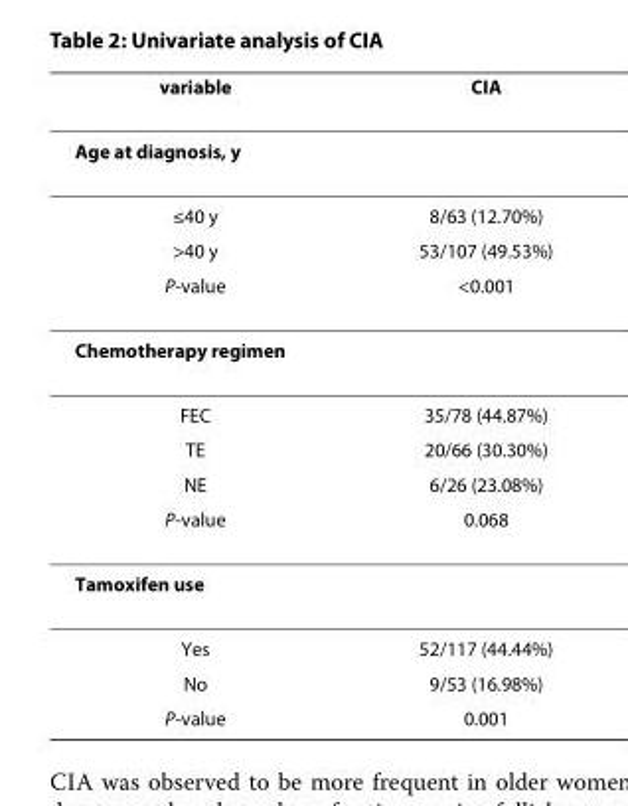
<table><thead><tr><td>variable</td><td>CIA</td></tr></thead><tbody><tr><td colspan="2">Age at diagnosis, y</td></tr><tr><td>≤40 y</td><td>8/63 (12.70%)</td></tr><tr><td>&gt;40 y</td><td>53/107 (49.53%)</td></tr><tr><td>P-value</td><td>&lt;0.001</td></tr><tr><td colspan="2">Chemotherapy regimen</td></tr><tr><td>FEC</td><td>35/78 (44.87%)</td></tr><tr><td>TE</td><td>20/66 (30.30%)</td></tr><tr><td>NE</td><td>6/26 (23.08%)</td></tr><tr><td>P-value</td><td>0.068</td></tr><tr><td colspan="2">Tamoxifen use</td></tr><tr><td>Yes</td><td>52/117 (44.44%)</td></tr><tr><td>No</td><td>9/53 (16.98%)</td></tr><tr><td>P-value</td><td>0.001</td></tr></tbody></table>